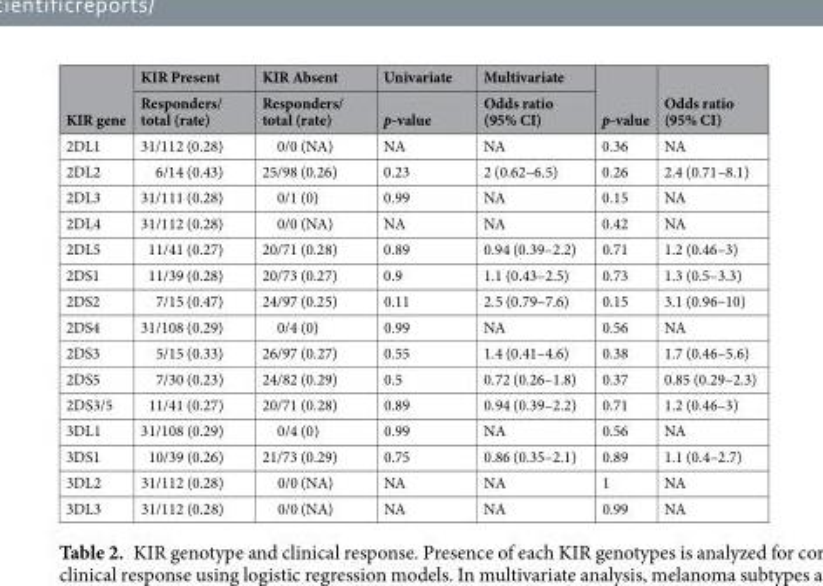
<table><thead><tr><td rowspan="2">KIR gene</td><td rowspan="2">KIR Present Responders/ total (rate)</td><td rowspan="2">KIR Absent Responders/ total (rate)</td><td rowspan="2">Univariate p-value</td><td rowspan="2">Multivariate Odds ratio (95% CI)</td><td rowspan="2">p-value</td><td rowspan="2">Odds ratio (95% CI)</td></tr><tr></tr></thead><tbody><tr><td>2DL1</td><td>31/112 (0.28)</td><td>0/0 (NA)</td><td>NA</td><td>NA</td><td>0.36</td><td>NA</td></tr><tr><td>2DL2</td><td>6/14 (0.43)</td><td>25/98 (0.26)</td><td>0.23</td><td>2 (0.62–6.5)</td><td>0.26</td><td>2.4 (0.71–8.1)</td></tr><tr><td>2DL3</td><td>31/111 (0.28)</td><td>0/1 (0)</td><td>0.99</td><td>NA</td><td>0.15</td><td>NA</td></tr><tr><td>2DL4</td><td>31/112 (0.28)</td><td>0/0 (NA)</td><td>NA</td><td>NA</td><td>0.42</td><td>NA</td></tr><tr><td>2DL5</td><td>11/41 (0.27)</td><td>20/71 (0.28)</td><td>0.89</td><td>0.94 (0.39–2.2)</td><td>0.71</td><td>1.2 (0.46–3)</td></tr><tr><td>2DS1</td><td>11/39 (0.28)</td><td>20/73 (0.27)</td><td>0.9</td><td>1.1 (0.43–2.5)</td><td>0.73</td><td>1.3 (0.5–3.3)</td></tr><tr><td>2DS2</td><td>7/15 (0.47)</td><td>24/97 (0.25)</td><td>0.11</td><td>2.5 (0.79–7.6)</td><td>0.15</td><td>3.1 (0.96–10)</td></tr><tr><td>2DS4</td><td>31/108 (0.29)</td><td>0/4 (0)</td><td>0.99</td><td>NA</td><td>0.56</td><td>NA</td></tr><tr><td>2DS3</td><td>5/15 (0.33)</td><td>26/97 (0.27)</td><td>0.55</td><td>1.4 (0.41–4.6)</td><td>0.38</td><td>1.7 (0.46–5.6)</td></tr><tr><td>2DS5</td><td>7/30 (0.23)</td><td>24/82 (0.29)</td><td>0.5</td><td>0.72 (0.26–1.8)</td><td>0.37</td><td>0.85 (0.29–2.3)</td></tr><tr><td>2DS3/5</td><td>11/41 (0.27)</td><td>20/71 (0.28)</td><td>0.89</td><td>0.94 (0.39–2.2)</td><td>0.71</td><td>1.2 (0.46–3)</td></tr><tr><td>3DL1</td><td>31/108 (0.29)</td><td>0/4 (0)</td><td>0.99</td><td>NA</td><td>0.56</td><td>NA</td></tr><tr><td>3DS1</td><td>10/39 (0.26)</td><td>21/73 (0.29)</td><td>0.75</td><td>0.86 (0.35–2.1)</td><td>0.89</td><td>1.1 (0.4–2.7)</td></tr><tr><td>3DL2</td><td>31/112 (0.28)</td><td>0/0 (NA)</td><td>NA</td><td>NA</td><td>1</td><td>NA</td></tr><tr><td>3DL3</td><td>31/112 (0.28)</td><td>0/0 (NA)</td><td>NA</td><td>NA</td><td>0.99</td><td>NA</td></tr></tbody></table>